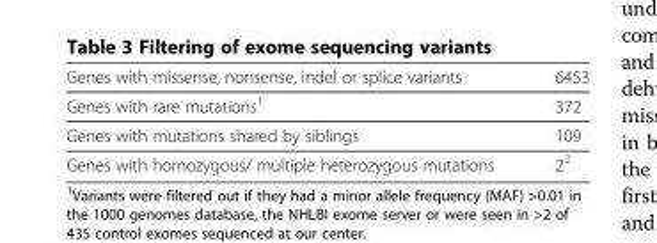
<table><thead><tr><td>Genes with missense, nonsense, indel or splice variants</td><td>6453</td></tr></thead><tbody><tr><td>Genes with rare mutations<sup>1</sup></td><td>372</td></tr><tr><td>Genes with mutations shared by siblings</td><td>109</td></tr><tr><td>Genes with homozygous/ multiple heterozygous mutations</td><td>2<sup>2</sup></td></tr></tbody></table>